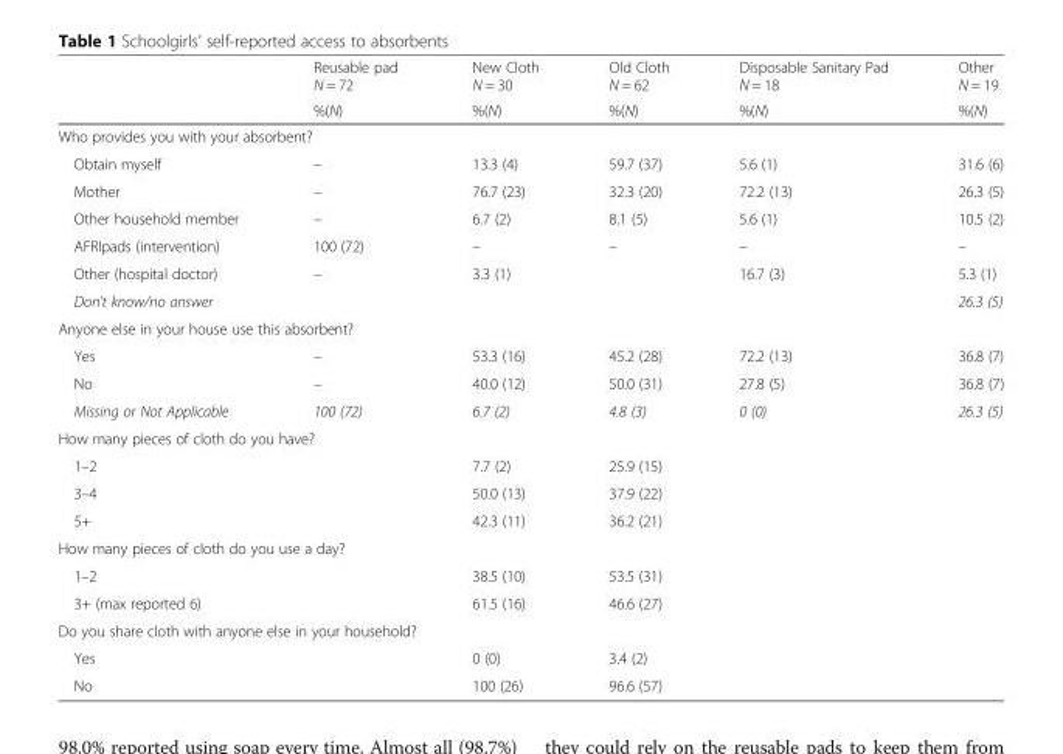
<table><thead><tr><td rowspan="2"></td><td rowspan="2">Reusable pad N = 72 %(N)</td><td rowspan="2">New Cloth N = 30 %(N)</td><td rowspan="2">Old Cloth N = 62 %(N)</td><td rowspan="2">Disposable Sanitary Pad N = 18 %(N)</td><td rowspan="2">Other N = 19 %(N)</td></tr><tr></tr></thead><tbody><tr><td colspan="6">Who provides you with your absorbent?</td></tr><tr><td>Obtain myself</td><td>–</td><td>13.3 (4)</td><td>59.7 (37)</td><td>5.6 (1)</td><td>31.6 (6)</td></tr><tr><td>Mother</td><td>–</td><td>76.7 (23)</td><td>32.3 (20)</td><td>72.2 (13)</td><td>26.3 (5)</td></tr><tr><td>Other household member</td><td>–</td><td>6.7 (2)</td><td>8.1 (5)</td><td>5.6 (1)</td><td>10.5 (2)</td></tr><tr><td>AFRIpads (intervention)</td><td>100 (72)</td><td>–</td><td>–</td><td>–</td><td>–</td></tr><tr><td>Other (hospital doctor)</td><td>–</td><td>3.3 (1)</td><td></td><td>16.7 (3)</td><td>5.3 (1)</td></tr><tr><td>Don’t know/no answer</td><td></td><td></td><td></td><td></td><td>26.3 (5)</td></tr><tr><td colspan="6">Anyone else in your house use this absorbent?</td></tr><tr><td>Yes</td><td>–</td><td>53.3 (16)</td><td>45.2 (28)</td><td>72.2 (13)</td><td>36.8 (7)</td></tr><tr><td>No</td><td>–</td><td>40.0 (12)</td><td>50.0 (31)</td><td>27.8 (5)</td><td>36.8 (7)</td></tr><tr><td>Missing or Not Applicable</td><td>100 (72)</td><td>6.7 (2)</td><td>4.8 (3)</td><td>0 (0)</td><td>26.3 (5)</td></tr><tr><td colspan="6">How many pieces of cloth do you have?</td></tr><tr><td>1–2</td><td></td><td>7.7 (2)</td><td>25.9 (15)</td><td></td><td></td></tr><tr><td>3–4</td><td></td><td>50.0 (13)</td><td>37.9 (22)</td><td></td><td></td></tr><tr><td>5+</td><td></td><td>42.3 (11)</td><td>36.2 (21)</td><td></td><td></td></tr><tr><td colspan="6">How many pieces of cloth do you use a day?</td></tr><tr><td>1–2</td><td></td><td>38.5 (10)</td><td>53.5 (31)</td><td></td><td></td></tr><tr><td>3+ (max reported 6)</td><td></td><td>61.5 (16)</td><td>46.6 (27)</td><td></td><td></td></tr><tr><td colspan="6">Do you share cloth with anyone else in your household?</td></tr><tr><td>Yes</td><td></td><td>0 (0)</td><td>3.4 (2)</td><td></td><td></td></tr><tr><td>No</td><td></td><td>100 (26)</td><td>96.6 (57)</td><td></td><td></td></tr></tbody></table>